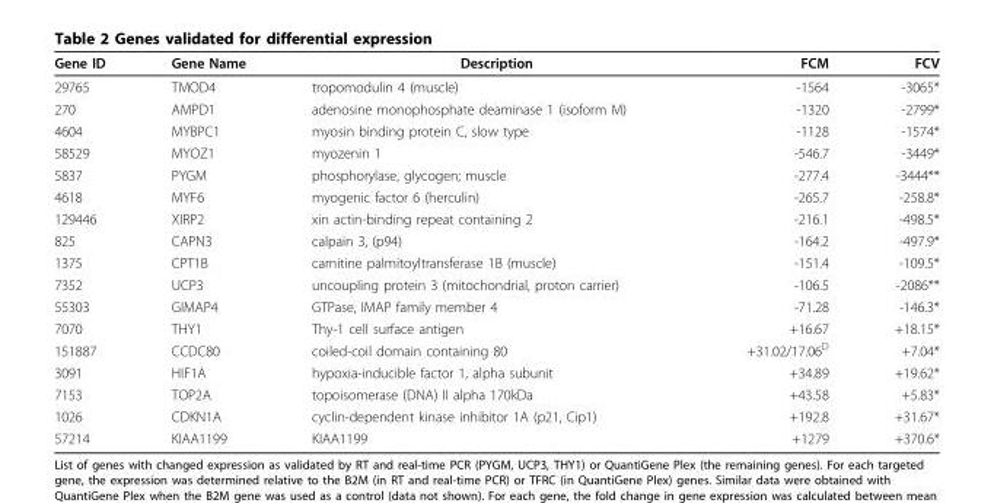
<table><thead><tr><td>Gene ID</td><td>Gene Name</td><td>Description</td><td>FCM</td><td>FCV</td></tr></thead><tbody><tr><td>29765</td><td>TMOD4</td><td>tropomodulin 4 (muscle)</td><td>-1564</td><td>-3065*</td></tr><tr><td>270</td><td>AMPD1</td><td>adenosine monophosphate deaminase 1 (isoform M)</td><td>-1320</td><td>-2799*</td></tr><tr><td>4604</td><td>MYBPC1</td><td>myosin binding protein C, slow type</td><td>-1128</td><td>-1574*</td></tr><tr><td>58529</td><td>MYOZ1</td><td>myozenin 1</td><td>-546.7</td><td>-3449*</td></tr><tr><td>5837</td><td>PYGM</td><td>phosphorylase, glycogen; muscle</td><td>-277.4</td><td>-3444**</td></tr><tr><td>4618</td><td>MYF6</td><td>myogenic factor 6 (herculin)</td><td>-265.7</td><td>-258.8*</td></tr><tr><td>129446</td><td>XIRP2</td><td>xin actin-binding repeat containing 2</td><td>-216.1</td><td>-498.5*</td></tr><tr><td>825</td><td>CAPN3</td><td>calpain 3, (p94)</td><td>-164.2</td><td>-497.9*</td></tr><tr><td>1375</td><td>CPT1B</td><td>carnitine palmitoyltransferase 1B (muscle)</td><td>-151.4</td><td>-109.5*</td></tr><tr><td>7352</td><td>UCP3</td><td>uncoupling protein 3 (mitochondrial, proton carrier)</td><td>-106.5</td><td>-2086**</td></tr><tr><td>55303</td><td>GIMAP4</td><td>GTPase, IMAP family member 4</td><td>-71.28</td><td>-146.3*</td></tr><tr><td>7070</td><td>THY1</td><td>Thy-1 cell surface antigen</td><td>+16.67</td><td>+18.15*</td></tr><tr><td>151887</td><td>CCDC80</td><td>coiled-coil domain containing 80</td><td>+31.02/17.06<sup>D</sup></td><td>+7.04*</td></tr><tr><td>3091</td><td>HIF1A</td><td>hypoxia-inducible factor 1, alpha subunit</td><td>+34.89</td><td>+19.62*</td></tr><tr><td>7153</td><td>TOP2A</td><td>topoisomerase (DNA) II alpha 170kDa</td><td>+43.58</td><td>+5.83*</td></tr><tr><td>1026</td><td>CDKN1A</td><td>cyclin-dependent kinase inhibitor 1A (p21, Cip1)</td><td>+192.8</td><td>+31.67*</td></tr><tr><td>57214</td><td>KIAA1199</td><td>KIAA1199</td><td>+1279</td><td>+370.6*</td></tr></tbody></table>